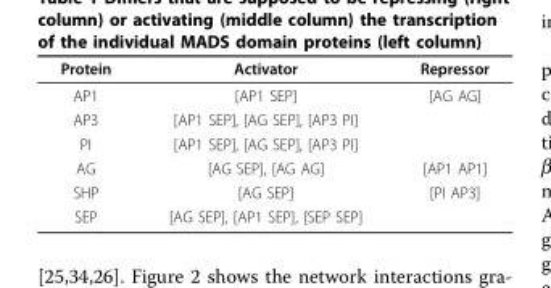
<table><thead><tr><td>Protein</td><td>Activator</td><td>Repressor</td></tr></thead><tbody><tr><td>AP1</td><td>[AP1 SEP]</td><td>[AG AG]</td></tr><tr><td>AP3</td><td>[AP1 SEP], [AG SEP], [AP3 PI]</td><td></td></tr><tr><td>PI</td><td>[AP1 SEP], [AG SEP], [AP3 PI]</td><td></td></tr><tr><td>AG</td><td>[AG SEP], [AG AG]</td><td>[AP1 AP1]</td></tr><tr><td>SHP</td><td>[AG SEP]</td><td>[PI AP3]</td></tr><tr><td>SEP</td><td>[AG SEP], [AP1 SEP], [SEP SEP]</td><td></td></tr></tbody></table>